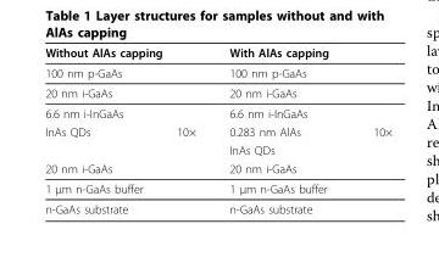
<table><thead><tr><td colspan="2">Without AlAs capping</td><td colspan="2">With AlAs capping</td></tr><tr><td>100 nm p-GaAs</td><td></td><td>100 nm p-GaAs</td><td></td></tr></thead><tbody><tr><td>20 nm i-GaAs</td><td></td><td>20 nm i-GaAs</td><td></td></tr><tr><td>6.6 nm i-InGaAs</td><td></td><td>6.6 nm i-InGaAs</td><td></td></tr><tr><td rowspan="2">InAs QDs</td><td>10×</td><td>0.283 nm AlAs</td><td>10×</td></tr><tr><td></td><td>InAs QDs</td><td></td></tr><tr><td>20 nm i-GaAs</td><td></td><td>20 nm i-GaAs</td><td></td></tr><tr><td>1 μm n-GaAs buffer</td><td></td><td>1 μm n-GaAs buffer</td><td></td></tr><tr><td>n-GaAs substrate</td><td></td><td>n-GaAs substrate</td><td></td></tr></tbody></table>